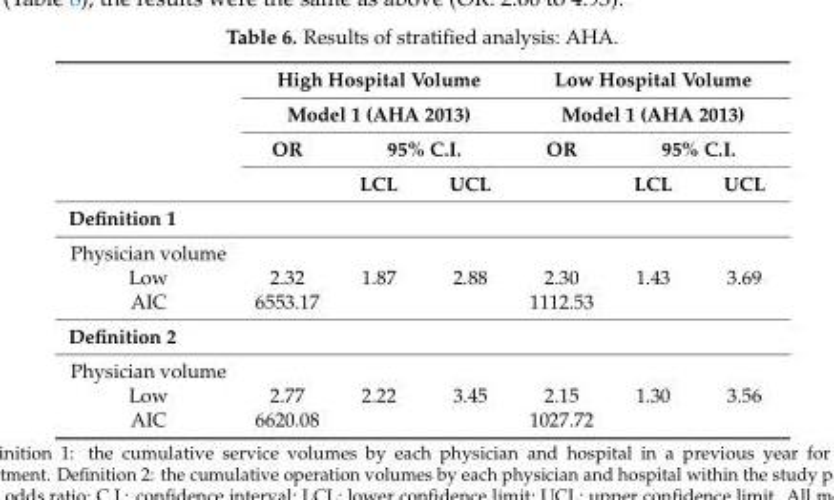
<table><thead><tr><td rowspan="4"></td><td rowspan="2" colspan="3">High Hospital Volume Model 1 (AHA 2013)</td><td rowspan="2" colspan="3">Low Hospital Volume Model 1 (AHA 2013)</td></tr><tr></tr><tr><td rowspan="2">OR</td><td colspan="2">95% C.I.</td><td rowspan="2">OR</td><td colspan="2">95% C.I.</td></tr><tr><td>LCL</td><td>UCL</td><td>LCL</td><td>UCL</td></tr></thead><tbody><tr><td colspan="7">Definition 1</td></tr><tr><td colspan="7">Physician volume</td></tr><tr><td>Low</td><td>2.32</td><td>1.87</td><td>2.88</td><td>2.30</td><td>1.43</td><td>3.69</td></tr><tr><td>AIC</td><td>6553.17</td><td></td><td></td><td>1112.53</td><td></td><td></td></tr><tr><td colspan="7">Definition 2</td></tr><tr><td colspan="7">Physician volume</td></tr><tr><td>Low</td><td>2.77</td><td>2.22</td><td>3.45</td><td>2.15</td><td>1.30</td><td>3.56</td></tr><tr><td>AIC</td><td>6620.08</td><td></td><td></td><td>1027.72</td><td></td><td></td></tr></tbody></table>